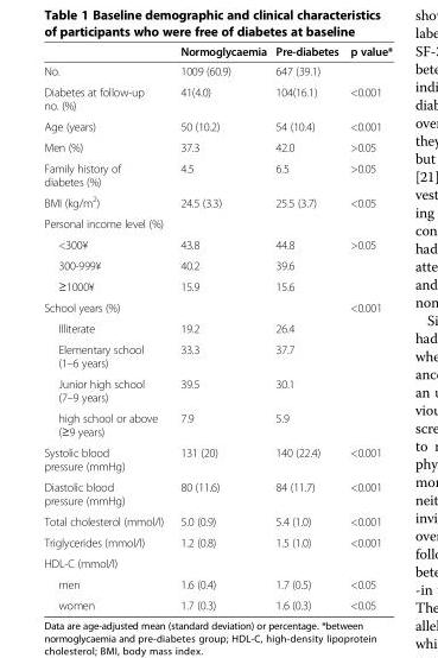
<table><thead><tr><td></td><td>Normoglycaemia</td><td>Pre-diabetes</td><td>p value*</td></tr></thead><tbody><tr><td>No.</td><td>1009 (60.9)</td><td>647 (39.1)</td><td></td></tr><tr><td>Diabetes at follow-up no. (%)</td><td>41(4.0)</td><td>104(16.1)</td><td>&lt;0.001</td></tr><tr><td>Age (years)</td><td>50 (10.2)</td><td>54 (10.4)</td><td>&lt;0.001</td></tr><tr><td>Men (%)</td><td>37.3</td><td>42.0</td><td>&gt;0.05</td></tr><tr><td>Family history of diabetes (%)</td><td>4.5</td><td>6.5</td><td>&gt;0.05</td></tr><tr><td>BMI (kg/m<sup>2</sup>)</td><td>24.5 (3.3)</td><td>25.5 (3.7)</td><td>&lt;0.05</td></tr><tr><td colspan="4">Personal income level (%)</td></tr><tr><td>&lt;300¥</td><td>43.8</td><td>44.8</td><td>&gt;0.05</td></tr><tr><td>300-999¥</td><td>40.2</td><td>39.6</td><td></td></tr><tr><td>≥1000¥</td><td>15.9</td><td>15.6</td><td></td></tr><tr><td>School years (%)</td><td></td><td></td><td>&lt;0.001</td></tr><tr><td>Illiterate</td><td>19.2</td><td>26.4</td><td></td></tr><tr><td>Elementary school (1–6 years)</td><td>33.3</td><td>37.7</td><td></td></tr><tr><td>Junior high school (7–9 years)</td><td>39.5</td><td>30.1</td><td></td></tr><tr><td>high school or above (≥9 years)</td><td>7.9</td><td>5.9</td><td></td></tr><tr><td>Systolic blood pressure (mmHg)</td><td>131 (20)</td><td>140 (22.4)</td><td>&lt;0.001</td></tr><tr><td>Diastolic blood pressure (mmHg)</td><td>80 (11.6)</td><td>84 (11.7)</td><td>&lt;0.001</td></tr><tr><td>Total cholesterol (mmol/l)</td><td>5.0 (0.9)</td><td>5.4 (1.0)</td><td>&lt;0.001</td></tr><tr><td>Triglycerides (mmol/l)</td><td>1.2 (0.8)</td><td>1.5 (1.0)</td><td>&lt;0.001</td></tr><tr><td colspan="4">HDL-C (mmol/l)</td></tr><tr><td>men</td><td>1.6 (0.4)</td><td>1.7 (0.5)</td><td>&lt;0.05</td></tr><tr><td>women</td><td>1.7 (0.3)</td><td>1.6 (0.3)</td><td>&lt;0.05</td></tr></tbody></table>